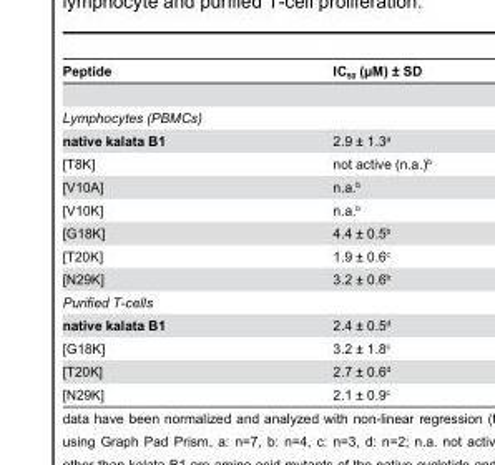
<table><thead><tr><td>Peptide</td><td>IC<sub>50</sub> (µM) ± SD</td></tr></thead><tbody><tr><td colspan="2">Lymphocytes (PBMCs)</td></tr><tr><td>native kalata B1</td><td>2.9 ± 1.3<sup>a</sup></td></tr><tr><td>[T8K]</td><td>not active (n.a.)<sup>b</sup></td></tr><tr><td>[V10A]</td><td>n.a.<sup>b</sup></td></tr><tr><td>[V10K]</td><td>n.a.<sup>b</sup></td></tr><tr><td>[G18K]</td><td>4.4 ± 0.5<sup>b</sup></td></tr><tr><td>[T20K]</td><td>1.9 ± 0.6<sup>c</sup></td></tr><tr><td>[N29K]</td><td>3.2 ± 0.6<sup>b</sup></td></tr><tr><td colspan="2">Purified T-cells</td></tr><tr><td>native kalata B1</td><td>2.4 ± 0.5<sup>d</sup></td></tr><tr><td>[G18K]</td><td>3.2 ± 1.8<sup>c</sup></td></tr><tr><td>[T20K]</td><td>2.7 ± 0.6<sup>d</sup></td></tr><tr><td>[N29K]</td><td>2.1 ± 0.9<sup>c</sup></td></tr></tbody></table>